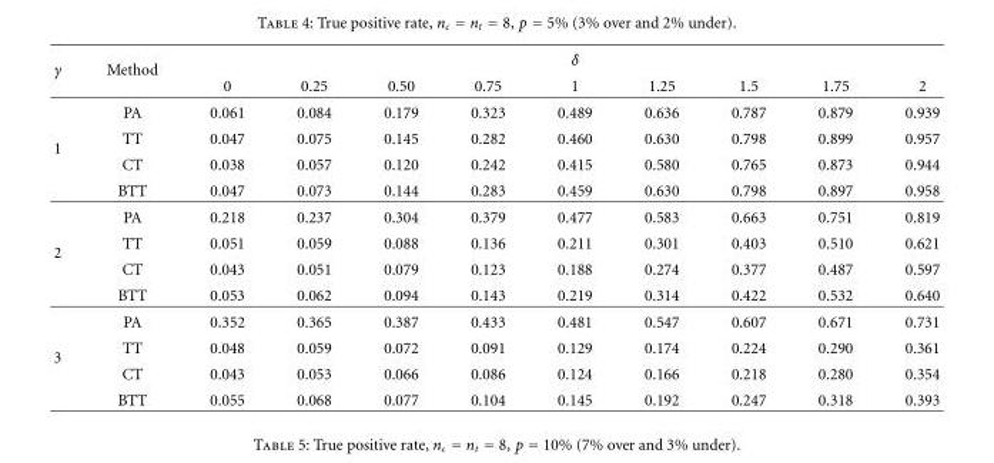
<table><thead><tr><td rowspan="2">γ</td><td rowspan="2">Method</td><td colspan="9">δ</td></tr><tr><td>0</td><td>0.25</td><td>0.50</td><td>0.75</td><td>1</td><td>1.25</td><td>1.5</td><td>1.75</td><td>2</td></tr></thead><tbody><tr><td rowspan="4">1</td><td>PA</td><td>0.061</td><td>0.084</td><td>0.179</td><td>0.323</td><td>0.489</td><td>0.636</td><td>0.787</td><td>0.879</td><td>0.939</td></tr><tr><td>TT</td><td>0.047</td><td>0.075</td><td>0.145</td><td>0.282</td><td>0.460</td><td>0.630</td><td>0.798</td><td>0.899</td><td>0.957</td></tr><tr><td>CT</td><td>0.038</td><td>0.057</td><td>0.120</td><td>0.242</td><td>0.415</td><td>0.580</td><td>0.765</td><td>0.873</td><td>0.944</td></tr><tr><td>BTT</td><td>0.047</td><td>0.073</td><td>0.144</td><td>0.283</td><td>0.459</td><td>0.630</td><td>0.798</td><td>0.897</td><td>0.958</td></tr><tr><td rowspan="4">2</td><td>PA</td><td>0.218</td><td>0.237</td><td>0.304</td><td>0.379</td><td>0.477</td><td>0.583</td><td>0.663</td><td>0.751</td><td>0.819</td></tr><tr><td>TT</td><td>0.051</td><td>0.059</td><td>0.088</td><td>0.136</td><td>0.211</td><td>0.301</td><td>0.403</td><td>0.510</td><td>0.621</td></tr><tr><td>CT</td><td>0.043</td><td>0.051</td><td>0.079</td><td>0.123</td><td>0.188</td><td>0.274</td><td>0.377</td><td>0.487</td><td>0.597</td></tr><tr><td>BTT</td><td>0.053</td><td>0.062</td><td>0.094</td><td>0.143</td><td>0.219</td><td>0.314</td><td>0.422</td><td>0.532</td><td>0.640</td></tr><tr><td rowspan="4">3</td><td>PA</td><td>0.352</td><td>0.365</td><td>0.387</td><td>0.433</td><td>0.481</td><td>0.547</td><td>0.607</td><td>0.671</td><td>0.731</td></tr><tr><td>TT</td><td>0.048</td><td>0.059</td><td>0.072</td><td>0.091</td><td>0.129</td><td>0.174</td><td>0.224</td><td>0.290</td><td>0.361</td></tr><tr><td>CT</td><td>0.043</td><td>0.053</td><td>0.066</td><td>0.086</td><td>0.124</td><td>0.166</td><td>0.218</td><td>0.280</td><td>0.354</td></tr><tr><td>BTT</td><td>0.055</td><td>0.068</td><td>0.077</td><td>0.104</td><td>0.145</td><td>0.192</td><td>0.247</td><td>0.318</td><td>0.393</td></tr></tbody></table>